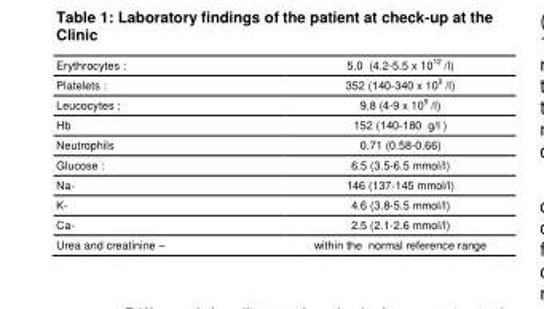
<table><thead><tr><td>Erythrocytes :</td><td>5.0 (4.2-5.5 x 1012 /l)</td></tr></thead><tbody><tr><td>Platelets :</td><td>352 (140-340 x 109 /l)</td></tr><tr><td>Leucocytes :</td><td>9.8 (4-9 x 109 /l)</td></tr><tr><td>Hb</td><td>152 (140-180 g/l )</td></tr><tr><td>Neutrophils</td><td>0.71 (0.58-0.66)</td></tr><tr><td>Glucose :</td><td>6.5 (3.5-6.5 mmol/l)</td></tr><tr><td>Na-</td><td>146 (137-145 mmol/l)</td></tr><tr><td>K-</td><td>4.6 (3.8-5.5 mmol/l)</td></tr><tr><td>Ca-</td><td>2.5 (2.1-2.6 mmol/l)</td></tr><tr><td>Urea and creatinine –</td><td>within the normal reference range</td></tr></tbody></table>